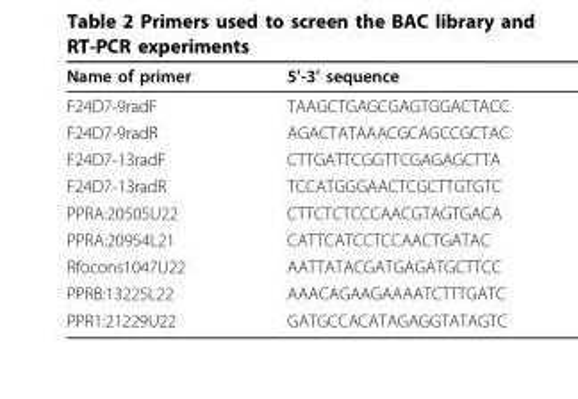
<table><thead><tr><td>Name of primer</td><td>5’-3’ sequence</td></tr></thead><tbody><tr><td>F24D7-9radF</td><td>TAAGCTGAGCGAGTGGACTACC</td></tr><tr><td>F24D7-9radR</td><td>AGACTATAAACGCAGCCGCTAC</td></tr><tr><td>F24D7-13radF</td><td>CTTGATTCGGTTCGAGAGCTTA</td></tr><tr><td>F24D7-13radR</td><td>TCCATGGGAACTCGCTTGTGTC</td></tr><tr><td>PPRA:20505U22</td><td>CTTCTCTCCCAACGTAGTGACA</td></tr><tr><td>PPRA:20954L21</td><td>CATTCATCCTCCAACTGATAC</td></tr><tr><td>Rfocons1047U22</td><td>AATTATACGATGAGATGCTTCC</td></tr><tr><td>PPRB:13225L22</td><td>AAACAGAAGAAAATCTTTGATC</td></tr><tr><td>PPR1:21229U22</td><td>GATGCCACATAGAGGTATAGTC</td></tr></tbody></table>